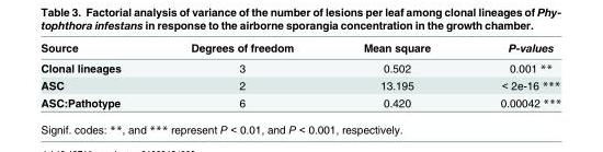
<table><thead><tr><td>Source</td><td>Degrees of freedom</td><td>Mean square</td><td>P-values</td></tr></thead><tbody><tr><td>Clonal lineages</td><td>3</td><td>0.502</td><td>0.001 **</td></tr><tr><td>ASC</td><td>2</td><td>13.195</td><td>&lt; 2e-16 ***</td></tr><tr><td>ASC:Pathotype</td><td>6</td><td>0.420</td><td>0.00042 ***</td></tr></tbody></table>